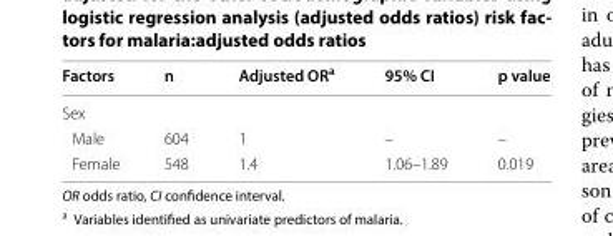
<table><thead><tr><td>Factors</td><td>n</td><td>Adjusted OR<sup>a</sup></td><td>95% CI</td><td>p value</td></tr></thead><tbody><tr><td colspan="5">Sex</td></tr><tr><td>Male</td><td>604</td><td>1</td><td>–</td><td>–</td></tr><tr><td>Female</td><td>548</td><td>1.4</td><td>1.06–1.89</td><td>0.019</td></tr></tbody></table>